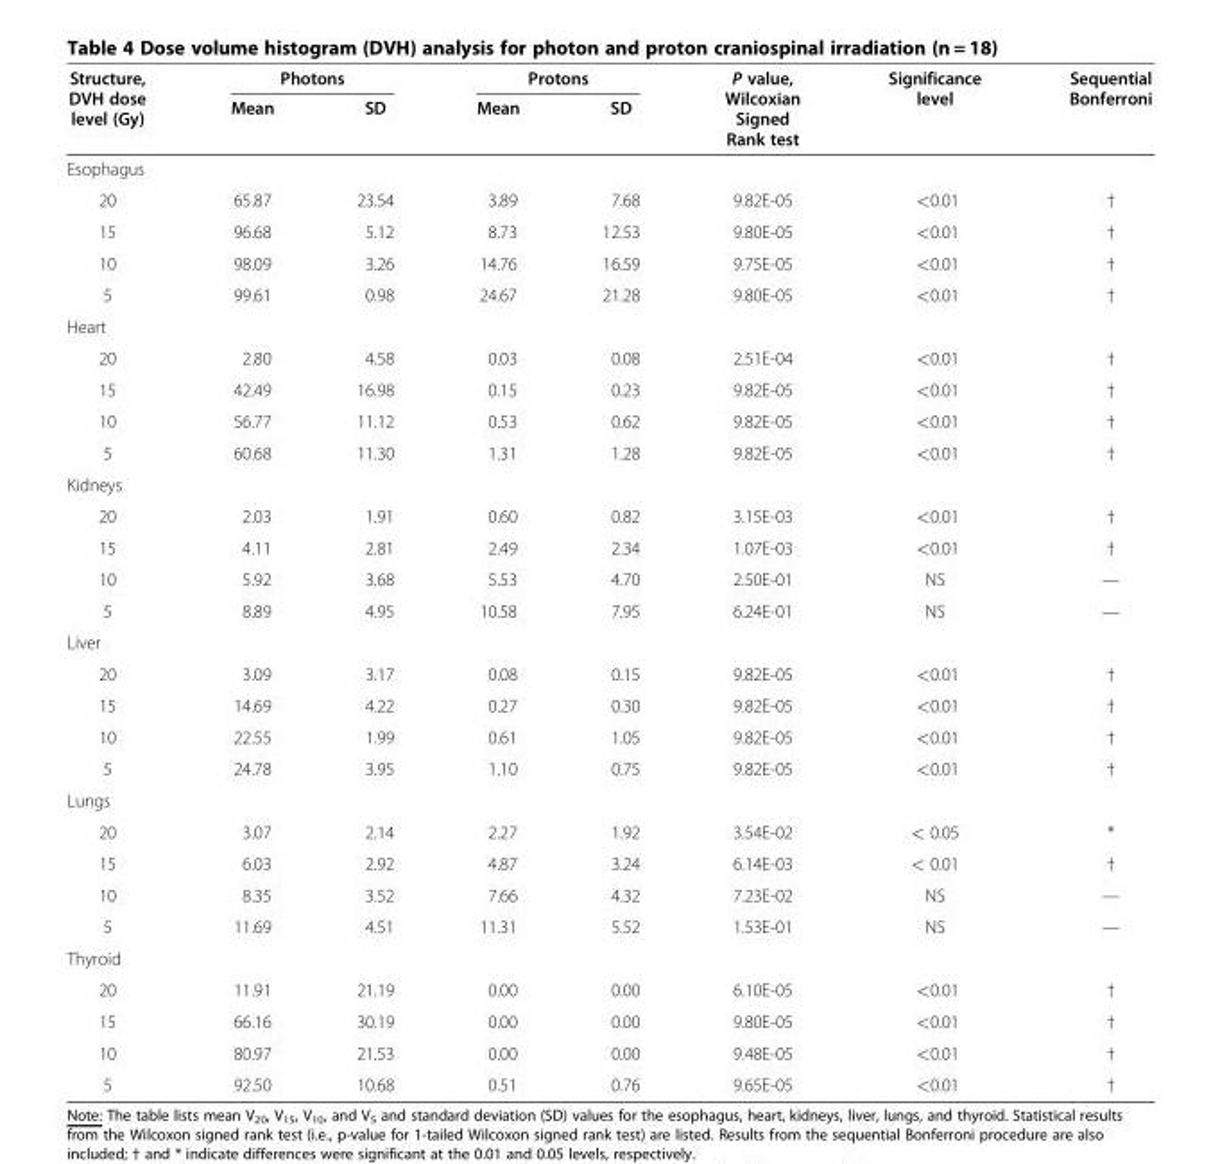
<table><thead><tr><td rowspan="2">Structure, DVH dose level (Gy)</td><td colspan="2">Photons</td><td colspan="2">Protons</td><td rowspan="2">P value, Wilcoxian Signed Rank test</td><td rowspan="2">Significance level</td><td rowspan="2">Sequential Bonferroni</td></tr><tr><td>Mean</td><td>SD</td><td>Mean</td><td>SD</td></tr></thead><tbody><tr><td colspan="8">Esophagus</td></tr><tr><td>20</td><td>65.87</td><td>23.54</td><td>3.89</td><td>7.68</td><td>9.82E-05</td><td>&lt;0.01</td><td>†</td></tr><tr><td>15</td><td>96.68</td><td>5.12</td><td>8.73</td><td>12.53</td><td>9.80E-05</td><td>&lt;0.01</td><td>†</td></tr><tr><td>10</td><td>98.09</td><td>3.26</td><td>14.76</td><td>16.59</td><td>9.75E-05</td><td>&lt;0.01</td><td>†</td></tr><tr><td>5</td><td>99.61</td><td>0.98</td><td>24.67</td><td>21.28</td><td>9.80E-05</td><td>&lt;0.01</td><td>†</td></tr><tr><td colspan="8">Heart</td></tr><tr><td>20</td><td>2.80</td><td>4.58</td><td>0.03</td><td>0.08</td><td>2.51E-04</td><td>&lt;0.01</td><td>†</td></tr><tr><td>15</td><td>42.49</td><td>16.98</td><td>0.15</td><td>0.23</td><td>9.82E-05</td><td>&lt;0.01</td><td>†</td></tr><tr><td>10</td><td>56.77</td><td>11.12</td><td>0.53</td><td>0.62</td><td>9.82E-05</td><td>&lt;0.01</td><td>†</td></tr><tr><td>5</td><td>60.68</td><td>11.30</td><td>1.31</td><td>1.28</td><td>9.82E-05</td><td>&lt;0.01</td><td>†</td></tr><tr><td colspan="8">Kidneys</td></tr><tr><td>20</td><td>2.03</td><td>1.91</td><td>0.60</td><td>0.82</td><td>3.15E-03</td><td>&lt;0.01</td><td>†</td></tr><tr><td>15</td><td>4.11</td><td>2.81</td><td>2.49</td><td>2.34</td><td>1.07E-03</td><td>&lt;0.01</td><td>†</td></tr><tr><td>10</td><td>5.92</td><td>3.68</td><td>5.53</td><td>4.70</td><td>2.50E-01</td><td>NS</td><td>—</td></tr><tr><td>5</td><td>8.89</td><td>4.95</td><td>10.58</td><td>7.95</td><td>6.24E-01</td><td>NS</td><td>—</td></tr><tr><td colspan="8">Liver</td></tr><tr><td>20</td><td>3.09</td><td>3.17</td><td>0.08</td><td>0.15</td><td>9.82E-05</td><td>&lt;0.01</td><td>†</td></tr><tr><td>15</td><td>14.69</td><td>4.22</td><td>0.27</td><td>0.30</td><td>9.82E-05</td><td>&lt;0.01</td><td>†</td></tr><tr><td>10</td><td>22.55</td><td>1.99</td><td>0.61</td><td>1.05</td><td>9.82E-05</td><td>&lt;0.01</td><td>†</td></tr><tr><td>5</td><td>24.78</td><td>3.95</td><td>1.10</td><td>0.75</td><td>9.82E-05</td><td>&lt;0.01</td><td>†</td></tr><tr><td colspan="8">Lungs</td></tr><tr><td>20</td><td>3.07</td><td>2.14</td><td>2.27</td><td>1.92</td><td>3.54E-02</td><td>&lt; 0.05</td><td>*</td></tr><tr><td>15</td><td>6.03</td><td>2.92</td><td>4.87</td><td>3.24</td><td>6.14E-03</td><td>&lt; 0.01</td><td>†</td></tr><tr><td>10</td><td>8.35</td><td>3.52</td><td>7.66</td><td>4.32</td><td>7.23E-02</td><td>NS</td><td>—</td></tr><tr><td>5</td><td>11.69</td><td>4.51</td><td>11.31</td><td>5.52</td><td>1.53E-01</td><td>NS</td><td>—</td></tr><tr><td colspan="8">Thyroid</td></tr><tr><td>20</td><td>11.91</td><td>21.19</td><td>0.00</td><td>0.00</td><td>6.10E-05</td><td>&lt;0.01</td><td>†</td></tr><tr><td>15</td><td>66.16</td><td>30.19</td><td>0.00</td><td>0.00</td><td>9.80E-05</td><td>&lt;0.01</td><td>†</td></tr><tr><td>10</td><td>80.97</td><td>21.53</td><td>0.00</td><td>0.00</td><td>9.48E-05</td><td>&lt;0.01</td><td>†</td></tr><tr><td>5</td><td>92.50</td><td>10.68</td><td>0.51</td><td>0.76</td><td>9.65E-05</td><td>&lt;0.01</td><td>†</td></tr></tbody></table>